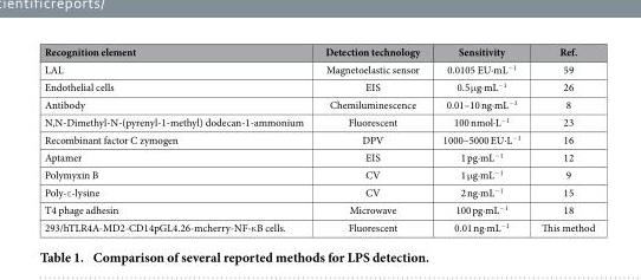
<table><thead><tr><td>Recognition element</td><td>Detection technology</td><td>Sensitivity</td><td>Ref.</td></tr></thead><tbody><tr><td>LAL</td><td>Magnetoelastic sensor</td><td>0.0105 EU·mL<sup>−1</sup></td><td>59</td></tr><tr><td>Endothelial cells</td><td>EIS</td><td>0.5 μ g·mL<sup>−1</sup></td><td>26</td></tr><tr><td>Antibody</td><td>Chemiluminescence</td><td>0.01–10 ng·mL<sup>−1</sup></td><td>8</td></tr><tr><td>N,N-Dimethyl-N-(pyrenyl-1-methyl) dodecan-1-ammonium</td><td>Fluorescent</td><td>100 nmol·L<sup>−1</sup></td><td>23</td></tr><tr><td>Recombinant factor C zymogen</td><td>DPV</td><td>1000–5000 EU·L<sup>−1</sup></td><td>16</td></tr><tr><td>Aptamer</td><td>EIS</td><td>1 pg·mL<sup>−1</sup></td><td>12</td></tr><tr><td>Polymyxin B</td><td>CV</td><td>1 μ g·mL<sup>−1</sup></td><td>9</td></tr><tr><td>Poly-ε -lysine</td><td>CV</td><td>2 ng·mL<sup>−1</sup></td><td>15</td></tr><tr><td>T4 phage adhesin</td><td>Microwave</td><td>100 pg·mL<sup>−1</sup></td><td>18</td></tr><tr><td>293/hTLR4A-MD2-CD14pGL4.26-mcherry-NF-κ B cells.</td><td>Fluorescent</td><td>0.01 ng·mL<sup>−1</sup></td><td>This method</td></tr></tbody></table>